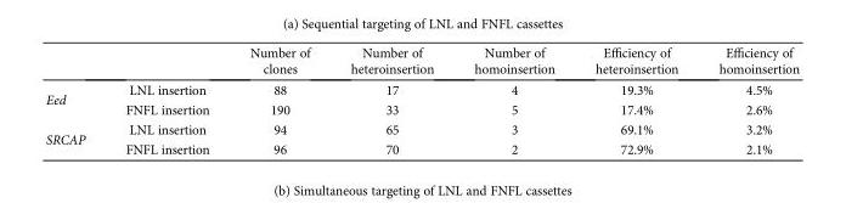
<table><thead><tr><td></td><td></td><td>Number of clones</td><td>Number of heteroinsertion</td><td>Number of homoinsertion</td><td>Efficiency of heteroinsertion</td><td>Efficiency of homoinsertion</td></tr></thead><tbody><tr><td rowspan="2">Eed</td><td>LNL insertion</td><td>88</td><td>17</td><td>4</td><td>19.3%</td><td>4.5%</td></tr><tr><td>FNFL insertion</td><td>190</td><td>33</td><td>5</td><td>17.4%</td><td>2.6%</td></tr><tr><td rowspan="2">SRCAP</td><td>LNL insertion</td><td>94</td><td>65</td><td>3</td><td>69.1%</td><td>3.2%</td></tr><tr><td>FNFL insertion</td><td>96</td><td>70</td><td>2</td><td>72.9%</td><td>2.1%</td></tr></tbody></table>